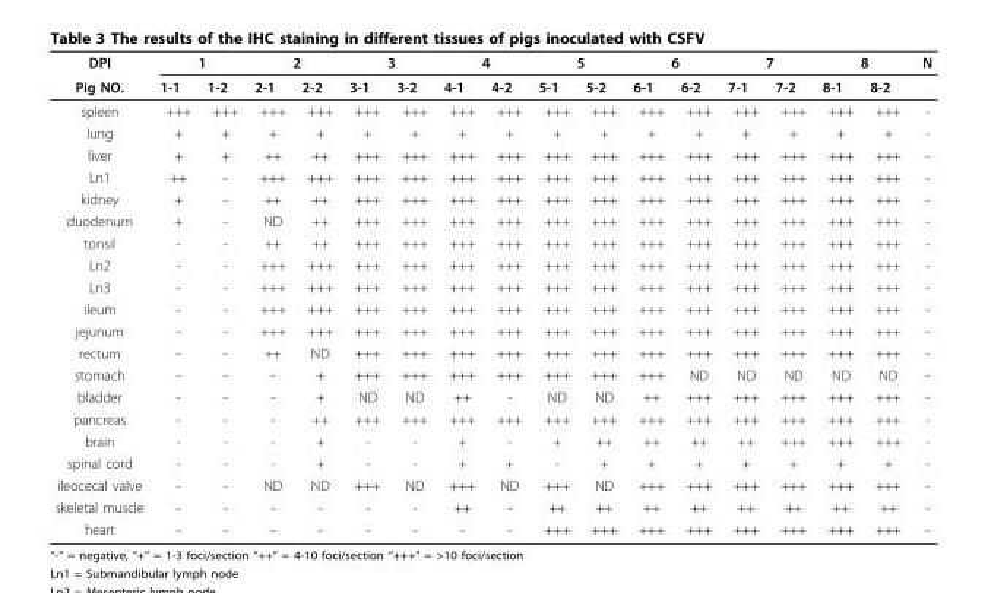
<table><thead><tr><td rowspan="2">DPI Pig NO.</td><td colspan="2">1</td><td colspan="2">2</td><td colspan="2">3</td><td colspan="2">4</td><td colspan="2">5</td><td colspan="2">6</td><td colspan="2">7</td><td colspan="2">8</td><td rowspan="2">N</td></tr><tr><td>1-1</td><td>1-2</td><td>2-1</td><td>2-2</td><td>3-1</td><td>3-2</td><td>4-1</td><td>4-2</td><td>5-1</td><td>5-2</td><td>6-1</td><td>6-2</td><td>7-1</td><td>7-2</td><td>8-1</td><td>8-2</td></tr></thead><tbody><tr><td>spleen</td><td>+++</td><td>+++</td><td>+++</td><td>+++</td><td>+++</td><td>+++</td><td>+++</td><td>+++</td><td>+++</td><td>+++</td><td>+++</td><td>+++</td><td>+++</td><td>+++</td><td>+++</td><td>+++</td><td>-</td></tr><tr><td>lung</td><td>+</td><td>+</td><td>+</td><td>+</td><td>+</td><td>+</td><td>+</td><td>+</td><td>+</td><td>+</td><td>+</td><td>+</td><td>+</td><td>+</td><td>+</td><td>+</td><td>-</td></tr><tr><td>liver</td><td>+</td><td>+</td><td>++</td><td>++</td><td>+++</td><td>+++</td><td>+++</td><td>+++</td><td>+++</td><td>+++</td><td>+++</td><td>+++</td><td>+++</td><td>+++</td><td>+++</td><td>+++</td><td>-</td></tr><tr><td>Ln1</td><td>++</td><td>-</td><td>+++</td><td>+++</td><td>+++</td><td>+++</td><td>+++</td><td>+++</td><td>+++</td><td>+++</td><td>+++</td><td>+++</td><td>+++</td><td>+++</td><td>+++</td><td>+++</td><td>-</td></tr><tr><td>kidney</td><td>+</td><td>-</td><td>++</td><td>++</td><td>+++</td><td>+++</td><td>+++</td><td>+++</td><td>+++</td><td>+++</td><td>+++</td><td>+++</td><td>+++</td><td>+++</td><td>+++</td><td>+++</td><td>-</td></tr><tr><td>duodenum</td><td>+</td><td>-</td><td>ND</td><td>++</td><td>+++</td><td>+++</td><td>+++</td><td>+++</td><td>+++</td><td>+++</td><td>+++</td><td>+++</td><td>+++</td><td>+++</td><td>+++</td><td>+++</td><td>-</td></tr><tr><td>tonsil</td><td>-</td><td>-</td><td>++</td><td>++</td><td>+++</td><td>+++</td><td>+++</td><td>+++</td><td>+++</td><td>+++</td><td>+++</td><td>+++</td><td>+++</td><td>+++</td><td>+++</td><td>+++</td><td>-</td></tr><tr><td>Ln2</td><td>-</td><td>-</td><td>+++</td><td>+++</td><td>+++</td><td>+++</td><td>+++</td><td>+++</td><td>+++</td><td>+++</td><td>+++</td><td>+++</td><td>+++</td><td>+++</td><td>+++</td><td>+++</td><td>-</td></tr><tr><td>Ln3</td><td>-</td><td>-</td><td>+++</td><td>+++</td><td>+++</td><td>+++</td><td>+++</td><td>+++</td><td>+++</td><td>+++</td><td>+++</td><td>+++</td><td>+++</td><td>+++</td><td>+++</td><td>+++</td><td>-</td></tr><tr><td>ileum</td><td>-</td><td>-</td><td>+++</td><td>+++</td><td>+++</td><td>+++</td><td>+++</td><td>+++</td><td>+++</td><td>+++</td><td>+++</td><td>+++</td><td>+++</td><td>+++</td><td>+++</td><td>+++</td><td>-</td></tr><tr><td>jejunum</td><td>-</td><td>-</td><td>+++</td><td>+++</td><td>+++</td><td>+++</td><td>+++</td><td>+++</td><td>+++</td><td>+++</td><td>+++</td><td>+++</td><td>+++</td><td>+++</td><td>+++</td><td>+++</td><td>-</td></tr><tr><td>rectum</td><td>-</td><td>-</td><td>++</td><td>ND</td><td>+++</td><td>+++</td><td>+++</td><td>+++</td><td>+++</td><td>+++</td><td>+++</td><td>+++</td><td>+++</td><td>+++</td><td>+++</td><td>+++</td><td>-</td></tr><tr><td>stomach</td><td>-</td><td>-</td><td>-</td><td>+</td><td>+++</td><td>+++</td><td>+++</td><td>+++</td><td>+++</td><td>+++</td><td>+++</td><td>ND</td><td>ND</td><td>ND</td><td>ND</td><td>ND</td><td>-</td></tr><tr><td>bladder</td><td>-</td><td>-</td><td>-</td><td>+</td><td>ND</td><td>ND</td><td>++</td><td>-</td><td>ND</td><td>ND</td><td>++</td><td>+++</td><td>+++</td><td>+++</td><td>+++</td><td>+++</td><td>-</td></tr><tr><td>pancreas</td><td>-</td><td>-</td><td>-</td><td>++</td><td>+++</td><td>+++</td><td>+++</td><td>+++</td><td>+++</td><td>+++</td><td>+++</td><td>+++</td><td>+++</td><td>+++</td><td>+++</td><td>+++</td><td>-</td></tr><tr><td>brain</td><td>-</td><td>-</td><td>-</td><td>+</td><td>-</td><td>-</td><td>+</td><td>-</td><td>+</td><td>++</td><td>++</td><td>++</td><td>++</td><td>+++</td><td>+++</td><td>+++</td><td>-</td></tr><tr><td>spinal cord</td><td>-</td><td>-</td><td>-</td><td>+</td><td>-</td><td>-</td><td>+</td><td>+</td><td>-</td><td>+</td><td>+</td><td>+</td><td>+</td><td>+</td><td>+</td><td>+</td><td>-</td></tr><tr><td>ileocecal valve</td><td>-</td><td>-</td><td>ND</td><td>ND</td><td>+++</td><td>ND</td><td>+++</td><td>ND</td><td>+++</td><td>ND</td><td>+++</td><td>+++</td><td>+++</td><td>+++</td><td>+++</td><td>+++</td><td>-</td></tr><tr><td>skeletal muscle</td><td>-</td><td>-</td><td>-</td><td>-</td><td>-</td><td>-</td><td>++</td><td>-</td><td>++</td><td>++</td><td>++</td><td>++</td><td>++</td><td>++</td><td>++</td><td>++</td><td>-</td></tr><tr><td>heart</td><td>-</td><td>-</td><td>-</td><td>-</td><td>-</td><td>-</td><td>-</td><td>-</td><td>+++</td><td>+++</td><td>+++</td><td>+++</td><td>+++</td><td>+++</td><td>+++</td><td>+++</td><td>-</td></tr></tbody></table>